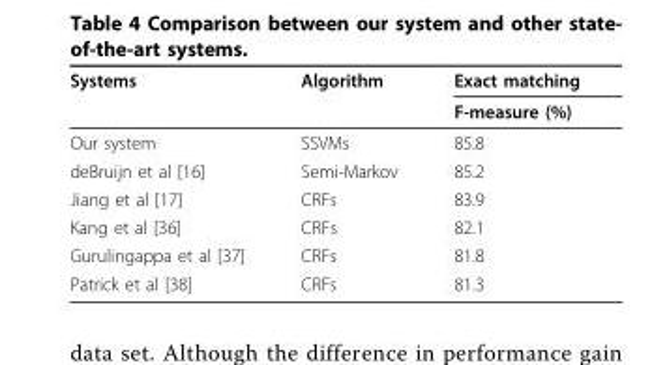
<table><thead><tr><td rowspan="2">Systems</td><td rowspan="2">Algorithm</td><td rowspan="2">Exact matching F-measure (%)</td></tr><tr></tr></thead><tbody><tr><td>Our system</td><td>SSVMs</td><td>85.8</td></tr><tr><td>deBruijn et al [16]</td><td>Semi-Markov</td><td>85.2</td></tr><tr><td>Jiang et al [17]</td><td>CRFs</td><td>83.9</td></tr><tr><td>Kang et al [36]</td><td>CRFs</td><td>82.1</td></tr><tr><td>Gurulingappa et al [37]</td><td>CRFs</td><td>81.8</td></tr><tr><td>Patrick et al [38]</td><td>CRFs</td><td>81.3</td></tr></tbody></table>